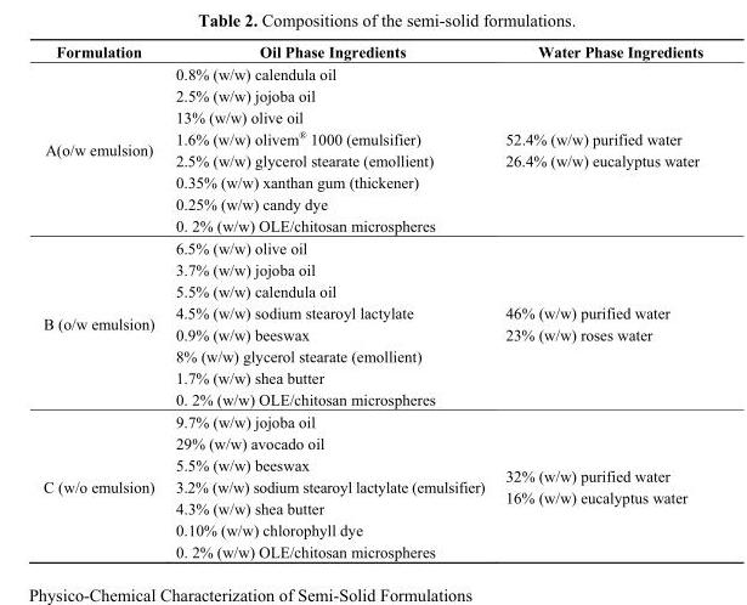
<table><thead><tr><td>Formulation</td><td>Oil Phase Ingredients</td><td>Water Phase Ingredients</td></tr></thead><tbody><tr><td>A(o/w emulsion)</td><td>0.8% (w/w) calendula oil 2.5% (w/w) jojoba oil 13% (w/w) olive oil 1.6% (w/w) olivem<sup>®</sup> 1000 (emulsifier) 2.5% (w/w) glycerol stearate (emollient) 0.35% (w/w) xanthan gum (thickener) 0.25% (w/w) candy dye 0. 2% (w/w) OLE/chitosan microspheres</td><td>52.4% (w/w) purified water 26.4% (w/w) eucalyptus water</td></tr><tr><td>B (o/w emulsion)</td><td>6.5% (w/w) olive oil 3.7% (w/w) jojoba oil 5.5% (w/w) calendula oil 4.5% (w/w) sodium stearoyl lactylate 0.9% (w/w) beeswax 8% (w/w) glycerol stearate (emollient) 1.7% (w/w) shea butter 0. 2% (w/w) OLE/chitosan microspheres</td><td>46% (w/w) purified water 23% (w/w) roses water</td></tr><tr><td>C (w/o emulsion)</td><td>9.7% (w/w) jojoba oil 29% (w/w) avocado oil 5.5% (w/w) beeswax 3.2% (w/w) sodium stearoyl lactylate (emulsifier) 4.3% (w/w) shea butter 0.10% (w/w) chlorophyll dye 0. 2% (w/w) OLE/chitosan microspheres</td><td>32% (w/w) purified water 16% (w/w) eucalyptus water</td></tr></tbody></table>